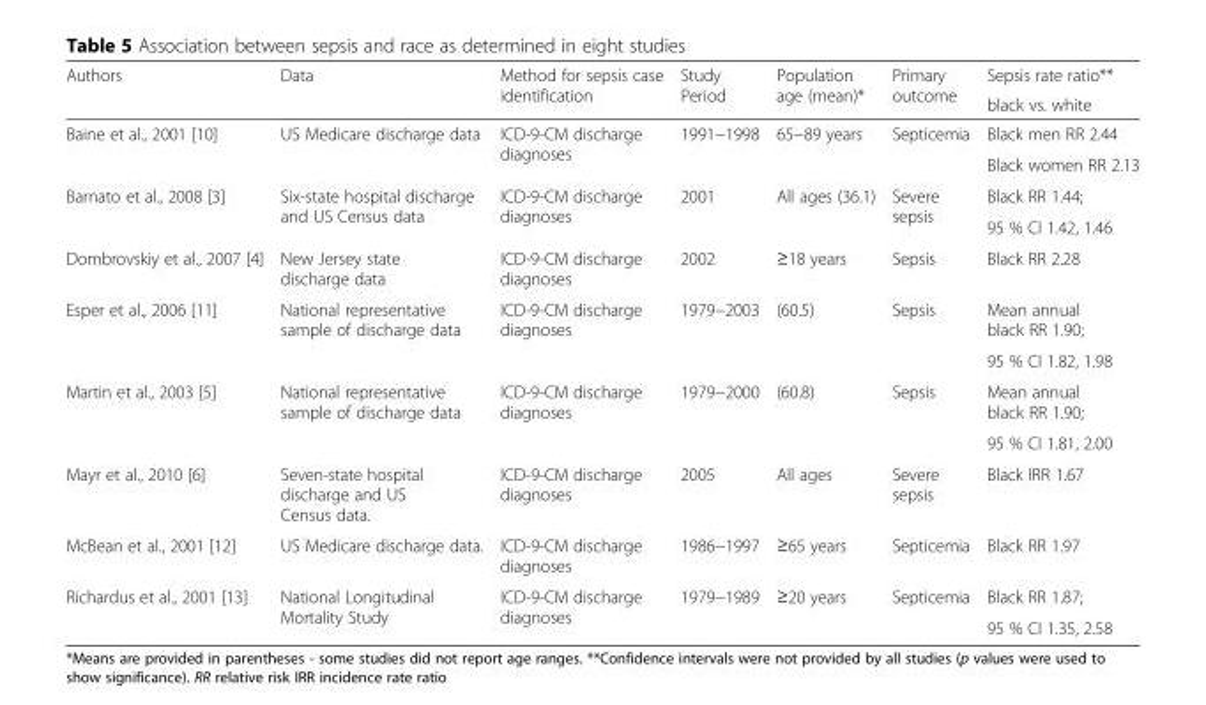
<table><thead><tr><td rowspan="2">Authors</td><td rowspan="2">Data</td><td rowspan="2">Method for sepsis case identification</td><td rowspan="2">Study Period</td><td rowspan="2">Population age (mean)*</td><td rowspan="2">Primary outcome</td><td rowspan="2">Sepsis rate ratio** black vs. white</td></tr><tr></tr></thead><tbody><tr><td rowspan="2">Baine et al., 2001 [10]</td><td rowspan="2">US Medicare discharge data</td><td rowspan="2">ICD-9-CM discharge diagnoses</td><td rowspan="2">1991−1998</td><td rowspan="2">65−89 years</td><td rowspan="2">Septicemia</td><td>Black men RR 2.44</td></tr><tr><td>Black women RR 2.13</td></tr><tr><td rowspan="2">Barnato et al., 2008 [3]</td><td rowspan="2">Six-state hospital discharge and US Census data</td><td rowspan="2">ICD-9-CM discharge diagnoses</td><td rowspan="2">2001</td><td rowspan="2">All ages (36.1)</td><td rowspan="2">Severe sepsis</td><td>Black RR 1.44;</td></tr><tr><td>95 % CI 1.42, 1.46</td></tr><tr><td>Dombrovskiy et al., 2007 [4]</td><td>New Jersey state discharge data</td><td>ICD-9-CM discharge diagnoses</td><td>2002</td><td>≥18 years</td><td>Sepsis</td><td>Black RR 2.28</td></tr><tr><td rowspan="2">Esper et al., 2006 [11]</td><td rowspan="2">National representative sample of discharge data</td><td rowspan="2">ICD-9-CM discharge diagnoses</td><td rowspan="2">1979−2003</td><td rowspan="2">(60.5)</td><td rowspan="2">Sepsis</td><td>Mean annual black RR 1.90;</td></tr><tr><td>95 % CI 1.82, 1.98</td></tr><tr><td rowspan="2">Martin et al., 2003 [5]</td><td rowspan="2">National representative sample of discharge data</td><td rowspan="2">ICD-9-CM discharge diagnoses</td><td rowspan="2">1979−2000</td><td rowspan="2">(60.8)</td><td rowspan="2">Sepsis</td><td>Mean annual black RR 1.90;</td></tr><tr><td>95 % CI 1.81, 2.00</td></tr><tr><td>Mayr et al., 2010 [6]</td><td>Seven-state hospital discharge and US Census data.</td><td>ICD-9-CM discharge diagnoses</td><td>2005</td><td>All ages</td><td>Severe sepsis</td><td>Black IRR 1.67</td></tr><tr><td>McBean et al., 2001 [12]</td><td>US Medicare discharge data.</td><td>ICD-9-CM discharge diagnoses</td><td>1986−1997</td><td>≥65 years</td><td>Septicemia</td><td>Black RR 1.97</td></tr><tr><td rowspan="2">Richardus et al., 2001 [13]</td><td rowspan="2">National Longitudinal Mortality Study</td><td rowspan="2">ICD-9-CM discharge diagnoses</td><td rowspan="2">1979−1989</td><td rowspan="2">≥20 years</td><td rowspan="2">Septicemia</td><td>Black RR 1.87;</td></tr><tr><td>95 % CI 1.35, 2.58</td></tr></tbody></table>